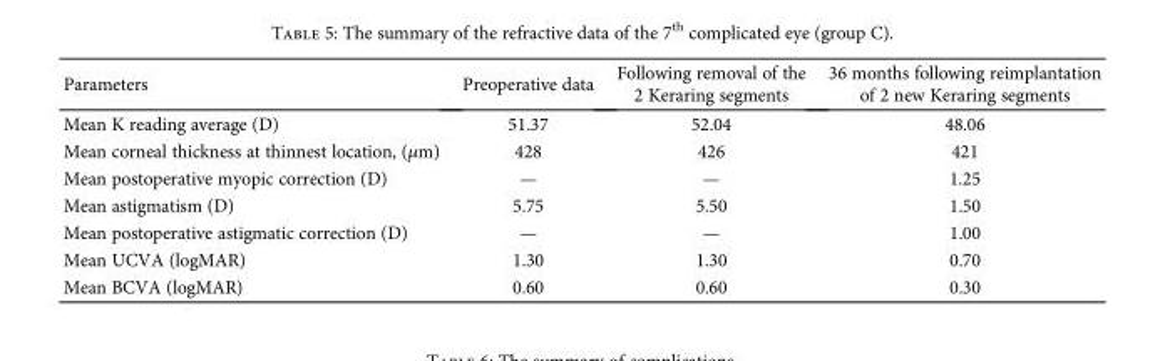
<table><thead><tr><td>Parameters</td><td>Preoperative data</td><td>Following removal of the 2 Keraring segments</td><td>36 months following reimplantation of 2 new Keraring segments</td></tr></thead><tbody><tr><td>Mean K reading average (D)</td><td>51.37</td><td>52.04</td><td>48.06</td></tr><tr><td>Mean corneal thickness at thinnest location, (μm)</td><td>428</td><td>426</td><td>421</td></tr><tr><td>Mean postoperative myopic correction (D)</td><td>—</td><td>—</td><td>1.25</td></tr><tr><td>Mean astigmatism (D)</td><td>5.75</td><td>5.50</td><td>1.50</td></tr><tr><td>Mean postoperative astigmatic correction (D)</td><td>—</td><td>—</td><td>1.00</td></tr><tr><td>Mean UCVA (logMAR)</td><td>1.30</td><td>1.30</td><td>0.70</td></tr><tr><td>Mean BCVA (logMAR)</td><td>0.60</td><td>0.60</td><td>0.30</td></tr></tbody></table>